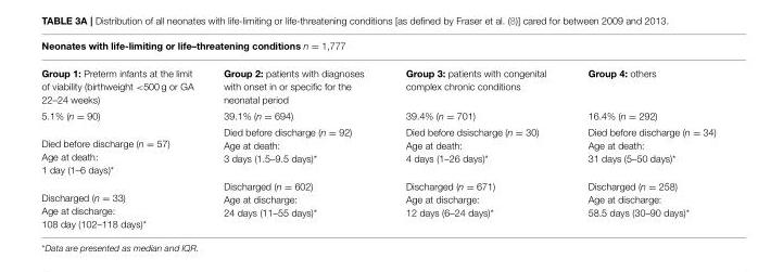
<table><thead><tr><td colspan="4">Neonates with life-limiting or life–threatening conditions n = 1,777</td></tr><tr><td>Group 1: Preterm infants at the limit of viability (birthweight &lt;500 g or GA 22–24 weeks)</td><td>Group 2: patients with diagnoses with onset in or specific for the neonatal period</td><td>Group 3: patients with congenital complex chronic conditions</td><td>Group 4: others</td></tr></thead><tbody><tr><td>5.1% (n = 90)</td><td>39.1% (n = 694)</td><td>39.4% (n = 701)</td><td>16.4% (n = 292)</td></tr><tr><td>Died before discharge (n = 57) Age at death: 1 day (1–6 days)*</td><td>Died before discharge (n = 92) Age at death: 3 days (1.5–9.5 days)*</td><td>Died before dsischarge (n = 30) Age at death: 4 days (1–26 days)*</td><td>Died before discharge (n = 34) Age at death: 31 days (5–50 days)*</td></tr><tr><td>Discharged (n = 33) Age at discharge: 108 day (102–118 days)*</td><td>Discharged (n = 602) Age at discharge: 24 days (11–55 days)*</td><td>Discharged (n = 671) Age at discharge: 12 days (6–24 days)*</td><td>Discharged (n = 258) Age at discharge: 58.5 days (30–90 days)*</td></tr></tbody></table>